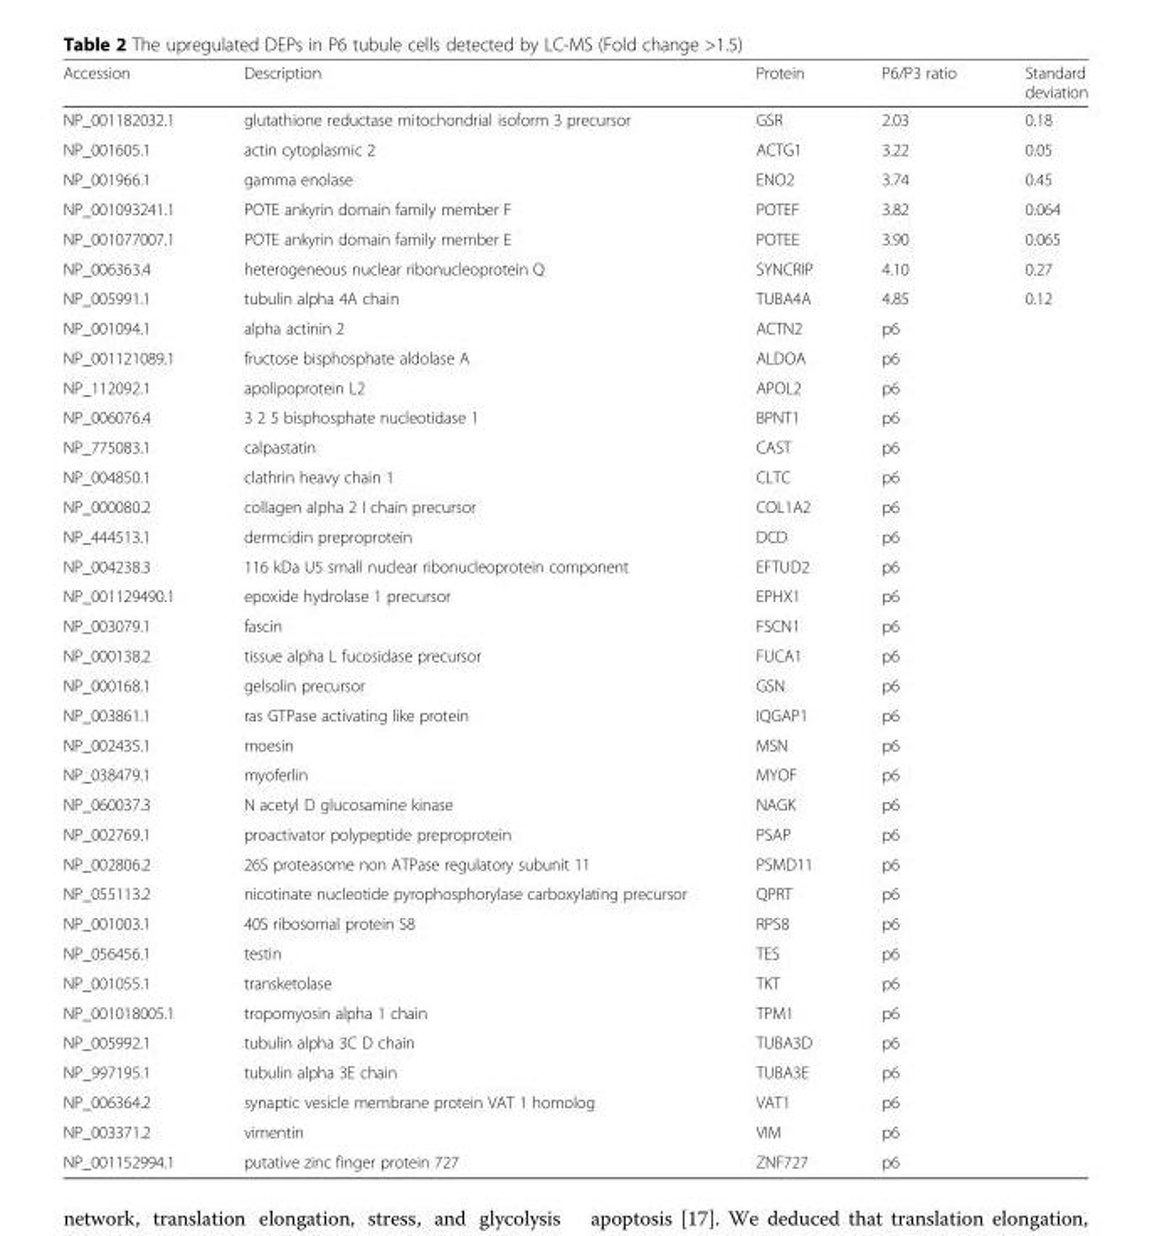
<table><thead><tr><td>Accession</td><td>Description</td><td>Protein</td><td>P6/P3 ratio</td><td>Standard deviation</td></tr></thead><tbody><tr><td>NP_001182032.1</td><td>glutathione reductase mitochondrial isoform 3 precursor</td><td>GSR</td><td>2.03</td><td>0.18</td></tr><tr><td>NP_001605.1</td><td>actin cytoplasmic 2</td><td>ACTG1</td><td>3.22</td><td>0.05</td></tr><tr><td>NP_001966.1</td><td>gamma enolase</td><td>ENO2</td><td>3.74</td><td>0.45</td></tr><tr><td>NP_001093241.1</td><td>POTE ankyrin domain family member F</td><td>POTEF</td><td>3.82</td><td>0.064</td></tr><tr><td>NP_001077007.1</td><td>POTE ankyrin domain family member E</td><td>POTEE</td><td>3.90</td><td>0.065</td></tr><tr><td>NP_006363.4</td><td>heterogeneous nuclear ribonucleoprotein Q</td><td>SYNCRIP</td><td>4.10</td><td>0.27</td></tr><tr><td>NP_005991.1</td><td>tubulin alpha 4A chain</td><td>TUBA4A</td><td>4.85</td><td>0.12</td></tr><tr><td>NP_001094.1</td><td>alpha actinin 2</td><td>ACTN2</td><td>p6</td><td></td></tr><tr><td>NP_001121089.1</td><td>fructose bisphosphate aldolase A</td><td>ALDOA</td><td>p6</td><td></td></tr><tr><td>NP_112092.1</td><td>apolipoprotein L2</td><td>APOL2</td><td>p6</td><td></td></tr><tr><td>NP_006076.4</td><td>3 2 5 bisphosphate nucleotidase 1</td><td>BPNT1</td><td>p6</td><td></td></tr><tr><td>NP_775083.1</td><td>calpastatin</td><td>CAST</td><td>p6</td><td></td></tr><tr><td>NP_004850.1</td><td>clathrin heavy chain 1</td><td>CLTC</td><td>p6</td><td></td></tr><tr><td>NP_000080.2</td><td>collagen alpha 2 I chain precursor</td><td>COL1A2</td><td>p6</td><td></td></tr><tr><td>NP_444513.1</td><td>dermcidin preproprotein</td><td>DCD</td><td>p6</td><td></td></tr><tr><td>NP_004238.3</td><td>116 kDa U5 small nuclear ribonucleoprotein component</td><td>EFTUD2</td><td>p6</td><td></td></tr><tr><td>NP_001129490.1</td><td>epoxide hydrolase 1 precursor</td><td>EPHX1</td><td>p6</td><td></td></tr><tr><td>NP_003079.1</td><td>fascin</td><td>FSCN1</td><td>p6</td><td></td></tr><tr><td>NP_000138.2</td><td>tissue alpha L fucosidase precursor</td><td>FUCA1</td><td>p6</td><td></td></tr><tr><td>NP_000168.1</td><td>gelsolin precursor</td><td>GSN</td><td>p6</td><td></td></tr><tr><td>NP_003861.1</td><td>ras GTPase activating like protein</td><td>IQGAP1</td><td>p6</td><td></td></tr><tr><td>NP_002435.1</td><td>moesin</td><td>MSN</td><td>p6</td><td></td></tr><tr><td>NP_038479.1</td><td>myoferlin</td><td>MYOF</td><td>p6</td><td></td></tr><tr><td>NP_060037.3</td><td>N acetyl D glucosamine kinase</td><td>NAGK</td><td>p6</td><td></td></tr><tr><td>NP_002769.1</td><td>proactivator polypeptide preproprotein</td><td>PSAP</td><td>p6</td><td></td></tr><tr><td>NP_002806.2</td><td>26S proteasome non ATPase regulatory subunit 11</td><td>PSMD11</td><td>p6</td><td></td></tr><tr><td>NP_055113.2</td><td>nicotinate nucleotide pyrophosphorylase carboxylating precursor</td><td>QPRT</td><td>p6</td><td></td></tr><tr><td>NP_001003.1</td><td>40S ribosomal protein S8</td><td>RPS8</td><td>p6</td><td></td></tr><tr><td>NP_056456.1</td><td>testin</td><td>TES</td><td>p6</td><td></td></tr><tr><td>NP_001055.1</td><td>transketolase</td><td>TKT</td><td>p6</td><td></td></tr><tr><td>NP_001018005.1</td><td>tropomyosin alpha 1 chain</td><td>TPM1</td><td>p6</td><td></td></tr><tr><td>NP_005992.1</td><td>tubulin alpha 3C D chain</td><td>TUBA3D</td><td>p6</td><td></td></tr><tr><td>NP_997195.1</td><td>tubulin alpha 3E chain</td><td>TUBA3E</td><td>p6</td><td></td></tr><tr><td>NP_006364.2</td><td>synaptic vesicle membrane protein VAT 1 homolog</td><td>VAT1</td><td>p6</td><td></td></tr><tr><td>NP_003371.2</td><td>vimentin</td><td>VIM</td><td>p6</td><td></td></tr><tr><td>NP_001152994.1</td><td>putative zinc finger protein 727</td><td>ZNF727</td><td>p6</td><td></td></tr></tbody></table>